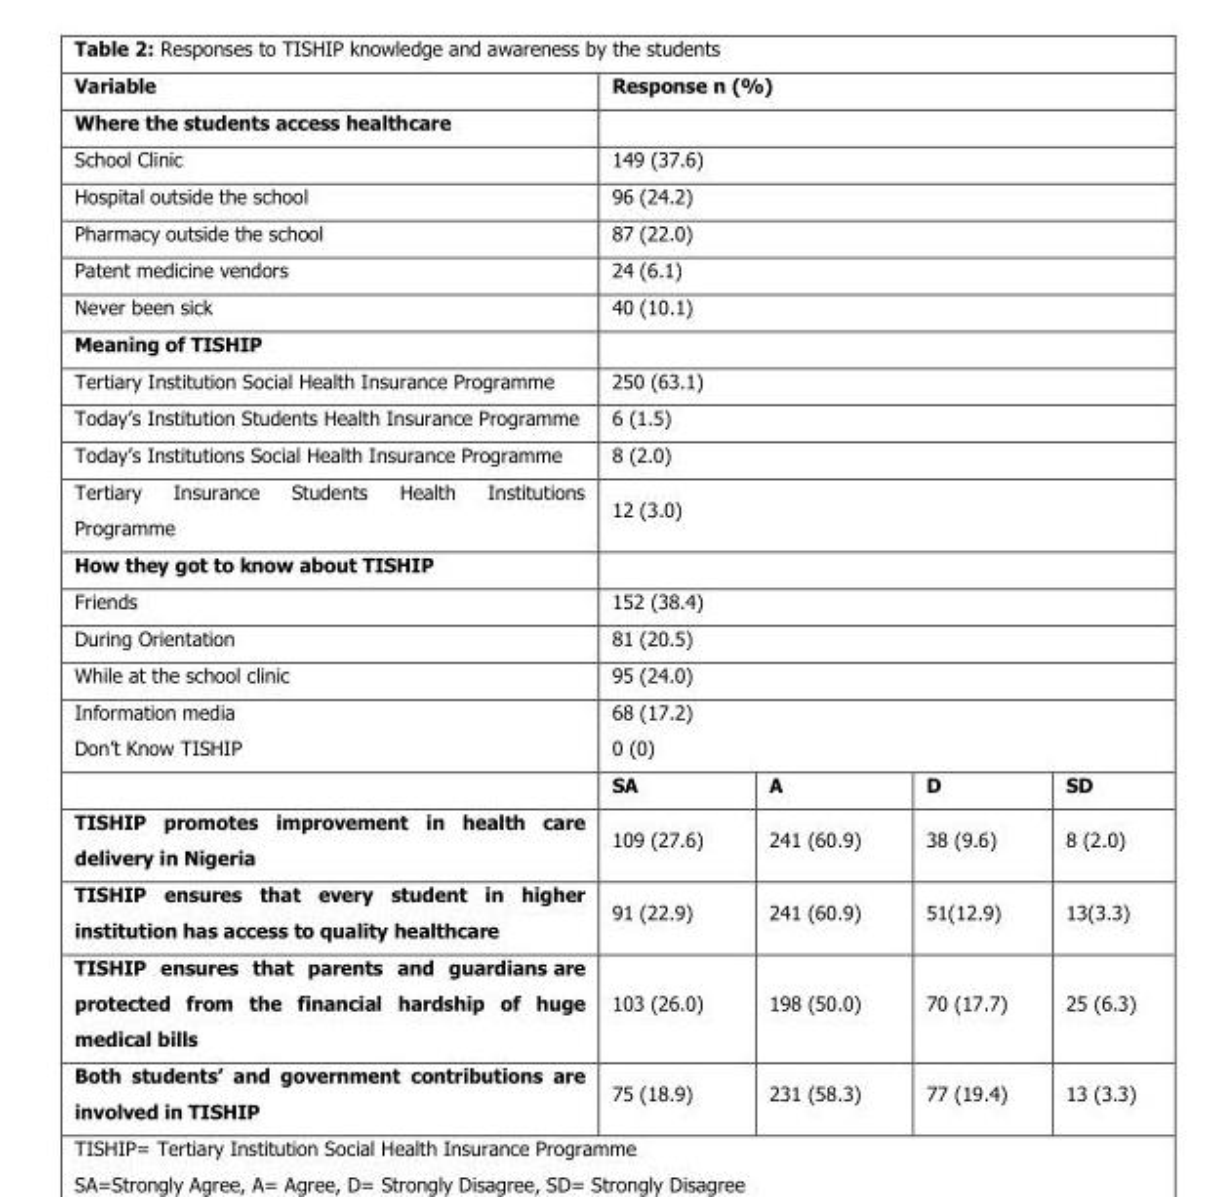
<table><thead><tr><td>Variable</td><td colspan="4">Response n (%)</td></tr></thead><tbody><tr><td colspan="5">Where the students access healthcare</td></tr><tr><td>School Clinic</td><td colspan="4">149 (37.6)</td></tr><tr><td>Hospital outside the school</td><td colspan="4">96 (24.2)</td></tr><tr><td>Pharmacy outside the school</td><td colspan="4">87 (22.0)</td></tr><tr><td>Patent medicine vendors</td><td colspan="4">24 (6.1)</td></tr><tr><td>Never been sick</td><td colspan="4">40 (10.1)</td></tr><tr><td colspan="5">Meaning of TISHIP</td></tr><tr><td>Tertiary Institution Social Health Insurance Programme</td><td colspan="4">250 (63.1)</td></tr><tr><td>Today’s Institution Students Health Insurance Programme</td><td colspan="4">6 (1.5)</td></tr><tr><td>Today’s Institutions Social Health Insurance Programme</td><td colspan="4">8 (2.0)</td></tr><tr><td>Tertiary Insurance Students Health Institutions Programme</td><td colspan="4">12 (3.0)</td></tr><tr><td colspan="5">How they got to know about TISHIP</td></tr><tr><td>Friends</td><td colspan="4">152 (38.4)</td></tr><tr><td>During Orientation</td><td colspan="4">81 (20.5)</td></tr><tr><td>While at the school clinic</td><td colspan="4">95 (24.0)</td></tr><tr><td rowspan="2">Information media Don’t Know TISHIP</td><td colspan="4">68 (17.2) 0 (0)</td></tr><tr><td>SA</td><td>A</td><td>D</td><td>SD</td></tr><tr><td>TISHIP promotes improvement in health care delivery in Nigeria</td><td>109 (27.6)</td><td>241 (60.9)</td><td>38 (9.6)</td><td>8 (2.0)</td></tr><tr><td>TISHIP ensures that every student in higher institution has access to quality healthcare</td><td>91 (22.9)</td><td>241 (60.9)</td><td>51(12.9)</td><td>13(3.3)</td></tr><tr><td>TISHIP ensures that parents and guardians are protected from the financial hardship of huge medical bills</td><td>103 (26.0)</td><td>198 (50.0)</td><td>70 (17.7)</td><td>25 (6.3)</td></tr><tr><td>Both students’ and government contributions are involved in TISHIP</td><td>75 (18.9)</td><td>231 (58.3)</td><td>77 (19.4)</td><td>13 (3.3)</td></tr></tbody></table>